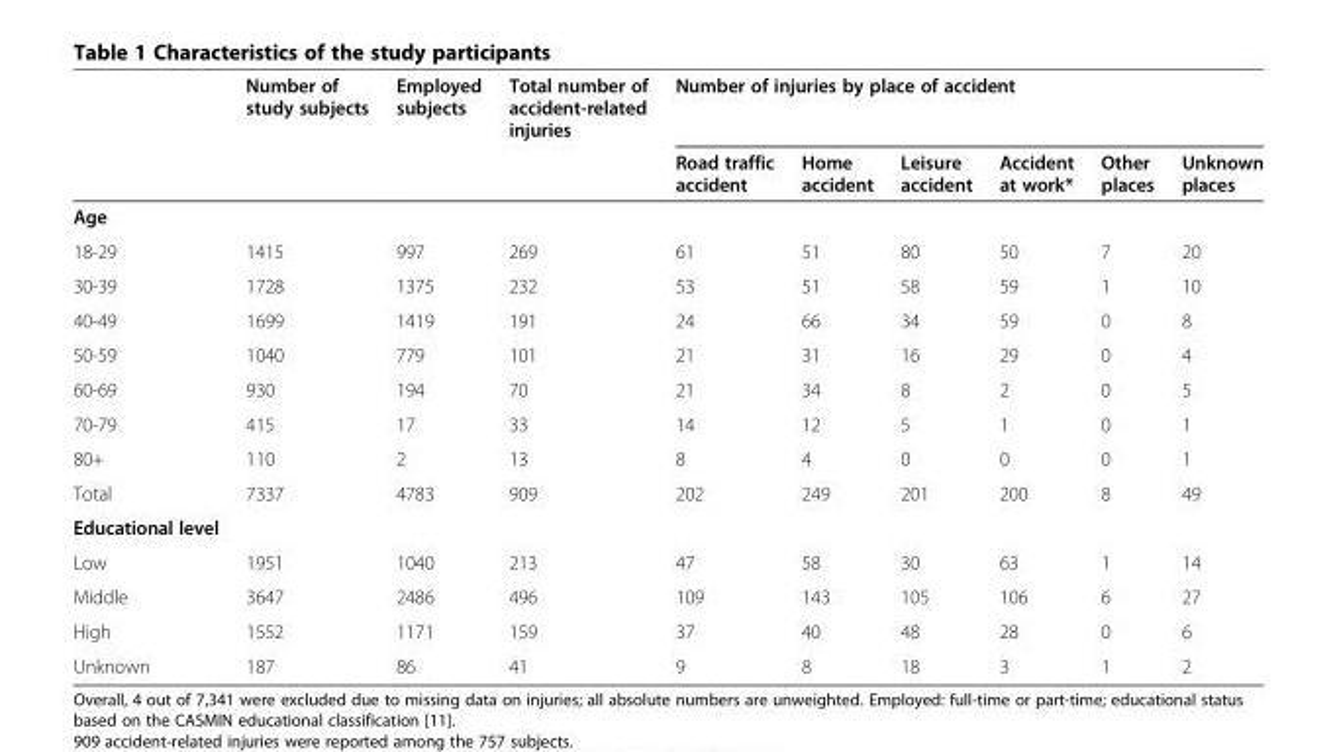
<table><thead><tr><td rowspan="2"></td><td rowspan="2">Number of study subjects</td><td rowspan="2">Employed subjects</td><td rowspan="2">Total number of accident-related injuries</td><td colspan="6">Number of injuries by place of accident</td></tr><tr><td>Road traffic accident</td><td>Home accident</td><td>Leisure accident</td><td>Accident at work*</td><td>Other places</td><td>Unknown places</td></tr></thead><tbody><tr><td colspan="10">Age</td></tr><tr><td>18-29</td><td>1415</td><td>997</td><td>269</td><td>61</td><td>51</td><td>80</td><td>50</td><td>7</td><td>20</td></tr><tr><td>30-39</td><td>1728</td><td>1375</td><td>232</td><td>53</td><td>51</td><td>58</td><td>59</td><td>1</td><td>10</td></tr><tr><td>40-49</td><td>1699</td><td>1419</td><td>191</td><td>24</td><td>66</td><td>34</td><td>59</td><td>0</td><td>8</td></tr><tr><td>50-59</td><td>1040</td><td>779</td><td>101</td><td>21</td><td>31</td><td>16</td><td>29</td><td>0</td><td>4</td></tr><tr><td>60-69</td><td>930</td><td>194</td><td>70</td><td>21</td><td>34</td><td>8</td><td>2</td><td>0</td><td>5</td></tr><tr><td>70-79</td><td>415</td><td>17</td><td>33</td><td>14</td><td>12</td><td>5</td><td>1</td><td>0</td><td>1</td></tr><tr><td>80+</td><td>110</td><td>2</td><td>13</td><td>8</td><td>4</td><td>0</td><td>0</td><td>0</td><td>1</td></tr><tr><td>Total</td><td>7337</td><td>4783</td><td>909</td><td>202</td><td>249</td><td>201</td><td>200</td><td>8</td><td>49</td></tr><tr><td colspan="10">Educational level</td></tr><tr><td>Low</td><td>1951</td><td>1040</td><td>213</td><td>47</td><td>58</td><td>30</td><td>63</td><td>1</td><td>14</td></tr><tr><td>Middle</td><td>3647</td><td>2486</td><td>496</td><td>109</td><td>143</td><td>105</td><td>106</td><td>6</td><td>27</td></tr><tr><td>High</td><td>1552</td><td>1171</td><td>159</td><td>37</td><td>40</td><td>48</td><td>28</td><td>0</td><td>6</td></tr><tr><td>Unknown</td><td>187</td><td>86</td><td>41</td><td>9</td><td>8</td><td>18</td><td>3</td><td>1</td><td>2</td></tr></tbody></table>